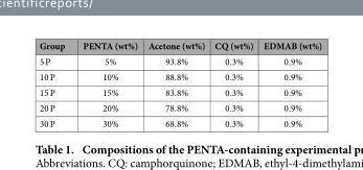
<table><thead><tr><td>Group</td><td>PENTA (wt%)</td><td>Acetone (wt%)</td><td>CQ (wt%)</td><td>EDMAB (wt%)</td></tr></thead><tbody><tr><td>5 P</td><td>5%</td><td>93.8%</td><td>0.3%</td><td>0.9%</td></tr><tr><td>10 P</td><td>10%</td><td>88.8%</td><td>0.3%</td><td>0.9%</td></tr><tr><td>15 P</td><td>15%</td><td>83.8%</td><td>0.3%</td><td>0.9%</td></tr><tr><td>20 P</td><td>20%</td><td>78.8%</td><td>0.3%</td><td>0.9%</td></tr><tr><td>30 P</td><td>30%</td><td>68.8%</td><td>0.3%</td><td>0.9%</td></tr></tbody></table>